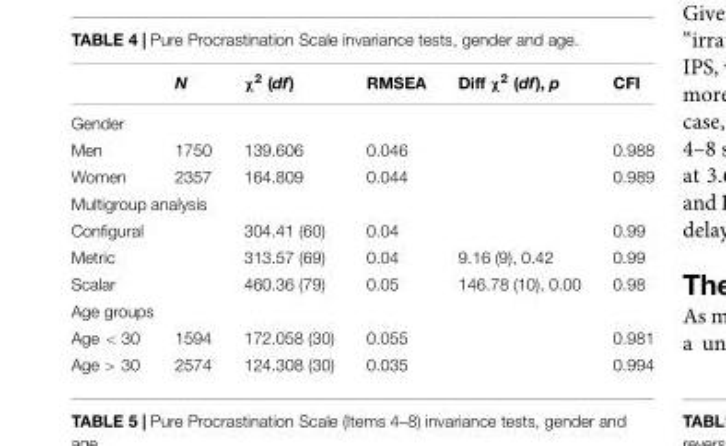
<table><thead><tr><td></td><td>N</td><td>χ<sup>2</sup> (df)</td><td>RMSEA</td><td>Diff χ<sup>2</sup> (df), p</td><td>CFI</td></tr></thead><tbody><tr><td colspan="6">Gender</td></tr><tr><td>Men</td><td>1750</td><td>139.606</td><td>0.046</td><td></td><td>0.988</td></tr><tr><td>Women</td><td>2357</td><td>164.809</td><td>0.044</td><td></td><td>0.989</td></tr><tr><td colspan="6">Multigroup analysis</td></tr><tr><td>Configural</td><td></td><td>304.41 (60)</td><td>0.04</td><td></td><td>0.99</td></tr><tr><td>Metric</td><td></td><td>313.57 (69)</td><td>0.04</td><td>9.16 (9), 0.42</td><td>0.99</td></tr><tr><td>Scalar</td><td></td><td>460.36 (79)</td><td>0.05</td><td>146.78 (10), 0.00</td><td>0.98</td></tr><tr><td colspan="6">Age groups</td></tr><tr><td>Age &lt; 30</td><td>1594</td><td>172.058 (30)</td><td>0.055</td><td></td><td>0.981</td></tr><tr><td>Age &gt; 30</td><td>2574</td><td>124.308 (30)</td><td>0.035</td><td></td><td>0.994</td></tr></tbody></table>